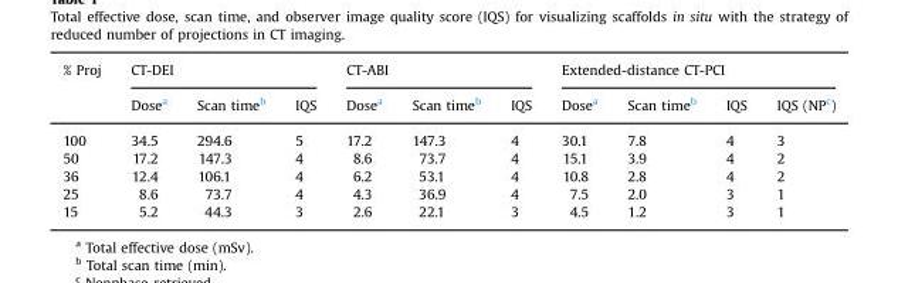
<table><thead><tr><td rowspan="2">% Proj</td><td colspan="3">CT-DEI</td><td colspan="3">CT-ABI</td><td colspan="4">Extended-distance CT-PCI</td></tr><tr><td>Dose<sup>a</sup></td><td>Scan time<sup>b</sup></td><td>IQS</td><td>Dose<sup>a</sup></td><td>Scan time<sup>b</sup></td><td>IQS</td><td>Dose<sup>a</sup></td><td>Scan time<sup>b</sup></td><td>IQS</td><td>IQS (NP<sup>c</sup>)</td></tr></thead><tbody><tr><td>100</td><td>34.5</td><td>294.6</td><td>5</td><td>17.2</td><td>147.3</td><td>4</td><td>30.1</td><td>7.8</td><td>4</td><td>3</td></tr><tr><td>50</td><td>17.2</td><td>147.3</td><td>4</td><td>8.6</td><td>73.7</td><td>4</td><td>15.1</td><td>3.9</td><td>4</td><td>2</td></tr><tr><td>36</td><td>12.4</td><td>106.1</td><td>4</td><td>6.2</td><td>53.1</td><td>4</td><td>10.8</td><td>2.8</td><td>4</td><td>2</td></tr><tr><td>25</td><td>8.6</td><td>73.7</td><td>4</td><td>4.3</td><td>36.9</td><td>4</td><td>7.5</td><td>2.0</td><td>3</td><td>1</td></tr><tr><td>15</td><td>5.2</td><td>44.3</td><td>3</td><td>2.6</td><td>22.1</td><td>3</td><td>4.5</td><td>1.2</td><td>3</td><td>1</td></tr></tbody></table>